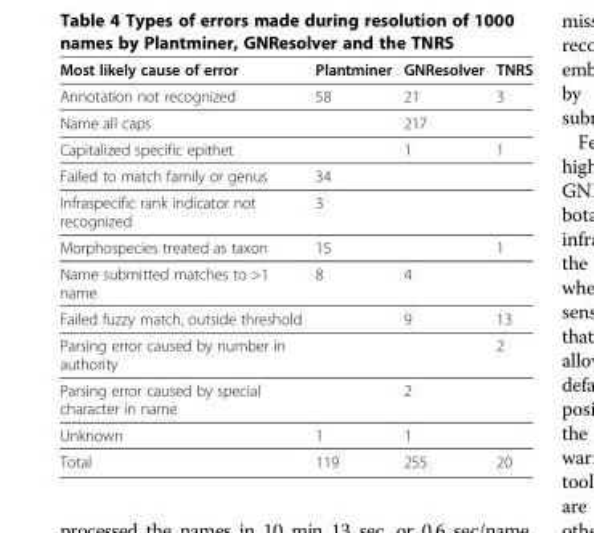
<table><thead><tr><td>Most likely cause of error</td><td>Plantminer</td><td>GNResolver</td><td>TNRS</td></tr></thead><tbody><tr><td>Annotation not recognized</td><td>58</td><td>21</td><td>3</td></tr><tr><td>Name all caps</td><td></td><td>217</td><td></td></tr><tr><td>Capitalized specific epithet</td><td></td><td>1</td><td>1</td></tr><tr><td>Failed to match family or genus</td><td>34</td><td></td><td></td></tr><tr><td>Infraspecific rank indicator not recognized</td><td>3</td><td></td><td></td></tr><tr><td>Morphospecies treated as taxon</td><td>15</td><td></td><td>1</td></tr><tr><td>Name submitted matches to &gt;1 name</td><td>8</td><td>4</td><td></td></tr><tr><td>Failed fuzzy match, outside threshold</td><td></td><td>9</td><td>13</td></tr><tr><td>Parsing error caused by number in authority</td><td></td><td></td><td>2</td></tr><tr><td>Parsing error caused by special character in name</td><td></td><td>2</td><td></td></tr><tr><td>Unknown</td><td>1</td><td>1</td><td></td></tr><tr><td>Total</td><td>119</td><td>255</td><td>20</td></tr></tbody></table>